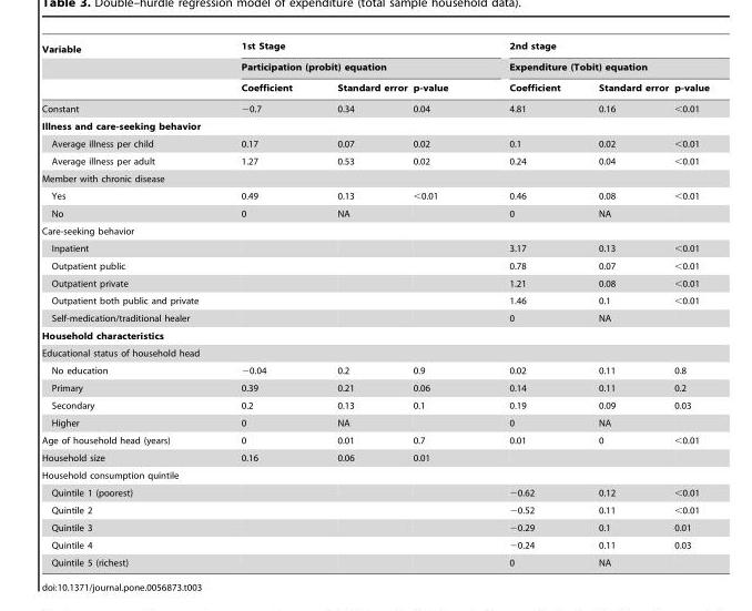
<table><thead><tr><td rowspan="3">Variable</td><td rowspan="2" colspan="3">1st Stage Participation (probit) equation</td><td rowspan="2" colspan="3">2nd stage Expenditure (Tobit) equation</td></tr><tr></tr><tr><td>Coefficient</td><td>Standard error</td><td>p-value</td><td>Coefficient</td><td>Standard error</td><td>p-value</td></tr></thead><tbody><tr><td>Constant</td><td>−0.7</td><td>0.34</td><td>0.04</td><td>4.81</td><td>0.16</td><td>&lt;0.01</td></tr><tr><td colspan="7">Illness and care-seeking behavior</td></tr><tr><td>Average illness per child</td><td>0.17</td><td>0.07</td><td>0.02</td><td>0.1</td><td>0.02</td><td>&lt;0.01</td></tr><tr><td>Average illness per adult</td><td>1.27</td><td>0.53</td><td>0.02</td><td>0.24</td><td>0.04</td><td>&lt;0.01</td></tr><tr><td colspan="7">Member with chronic disease</td></tr><tr><td>Yes</td><td>0.49</td><td>0.13</td><td>&lt;0.01</td><td>0.46</td><td>0.08</td><td>&lt;0.01</td></tr><tr><td>No</td><td>0</td><td>NA</td><td></td><td>0</td><td>NA</td><td></td></tr><tr><td colspan="7">Care-seeking behavior</td></tr><tr><td>Inpatient</td><td></td><td></td><td></td><td>3.17</td><td>0.13</td><td>&lt;0.01</td></tr><tr><td>Outpatient public</td><td></td><td></td><td></td><td>0.78</td><td>0.07</td><td>&lt;0.01</td></tr><tr><td>Outpatient private</td><td></td><td></td><td></td><td>1.21</td><td>0.08</td><td>&lt;0.01</td></tr><tr><td>Outpatient both public and private</td><td></td><td></td><td></td><td>1.46</td><td>0.1</td><td>&lt;0.01</td></tr><tr><td>Self-medication/traditional healer</td><td></td><td></td><td></td><td>0</td><td>NA</td><td></td></tr><tr><td colspan="7">Household characteristics</td></tr><tr><td colspan="7">Educational status of household head</td></tr><tr><td>No education</td><td>−0.04</td><td>0.2</td><td>0.9</td><td>0.02</td><td>0.11</td><td>0.8</td></tr><tr><td>Primary</td><td>0.39</td><td>0.21</td><td>0.06</td><td>0.14</td><td>0.11</td><td>0.2</td></tr><tr><td>Secondary</td><td>0.2</td><td>0.13</td><td>0.1</td><td>0.19</td><td>0.09</td><td>0.03</td></tr><tr><td>Higher</td><td>0</td><td>NA</td><td></td><td>0</td><td>NA</td><td></td></tr><tr><td>Age of household head (years)</td><td>0</td><td>0.01</td><td>0.7</td><td>0.01</td><td>0</td><td>&lt;0.01</td></tr><tr><td>Household size</td><td>0.16</td><td>0.06</td><td>0.01</td><td></td><td></td><td></td></tr><tr><td colspan="7">Household consumption quintile</td></tr><tr><td>Quintile 1 (poorest)</td><td></td><td></td><td></td><td>−0.62</td><td>0.12</td><td>&lt;0.01</td></tr><tr><td>Quintile 2</td><td></td><td></td><td></td><td>−0.52</td><td>0.11</td><td>&lt;0.01</td></tr><tr><td>Quintile 3</td><td></td><td></td><td></td><td>−0.29</td><td>0.1</td><td>0.01</td></tr><tr><td>Quintile 4</td><td></td><td></td><td></td><td>−0.24</td><td>0.11</td><td>0.03</td></tr><tr><td>Quintile 5 (richest)</td><td></td><td></td><td></td><td>0</td><td>NA</td><td></td></tr></tbody></table>